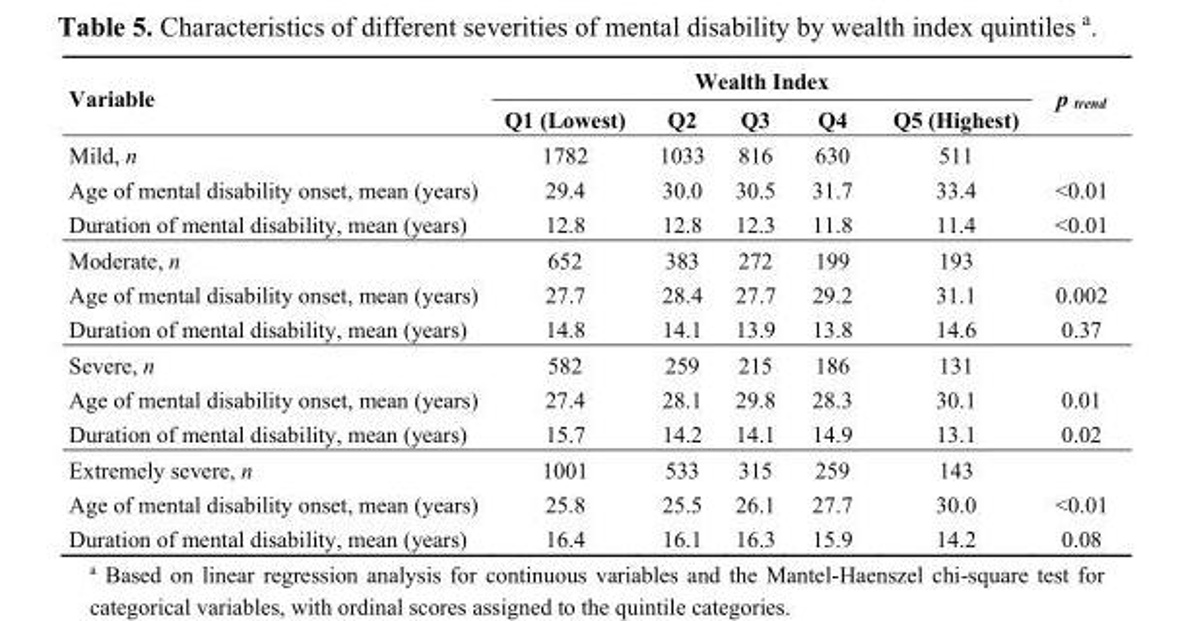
<table><thead><tr><td rowspan="2">Variable</td><td colspan="5">Wealth Index</td><td rowspan="2">p <sub>trend</sub></td></tr><tr><td>Q1 (Lowest)</td><td>Q2</td><td>Q3</td><td>Q4</td><td>Q5 (Highest)</td></tr></thead><tbody><tr><td>Mild, n</td><td>1782</td><td>1033</td><td>816</td><td>630</td><td>511</td><td></td></tr><tr><td>Age of mental disability onset, mean (years)</td><td>29.4</td><td>30.0</td><td>30.5</td><td>31.7</td><td>33.4</td><td>&lt;0.01</td></tr><tr><td>Duration of mental disability, mean (years)</td><td>12.8</td><td>12.8</td><td>12.3</td><td>11.8</td><td>11.4</td><td>&lt;0.01</td></tr><tr><td>Moderate, n</td><td>652</td><td>383</td><td>272</td><td>199</td><td>193</td><td></td></tr><tr><td>Age of mental disability onset, mean (years)</td><td>27.7</td><td>28.4</td><td>27.7</td><td>29.2</td><td>31.1</td><td>0.002</td></tr><tr><td>Duration of mental disability, mean (years)</td><td>14.8</td><td>14.1</td><td>13.9</td><td>13.8</td><td>14.6</td><td>0.37</td></tr><tr><td>Severe, n</td><td>582</td><td>259</td><td>215</td><td>186</td><td>131</td><td></td></tr><tr><td>Age of mental disability onset, mean (years)</td><td>27.4</td><td>28.1</td><td>29.8</td><td>28.3</td><td>30.1</td><td>0.01</td></tr><tr><td>Duration of mental disability, mean (years)</td><td>15.7</td><td>14.2</td><td>14.1</td><td>14.9</td><td>13.1</td><td>0.02</td></tr><tr><td>Extremely severe, n</td><td>1001</td><td>533</td><td>315</td><td>259</td><td>143</td><td></td></tr><tr><td>Age of mental disability onset, mean (years)</td><td>25.8</td><td>25.5</td><td>26.1</td><td>27.7</td><td>30.0</td><td>&lt;0.01</td></tr><tr><td>Duration of mental disability, mean (years)</td><td>16.4</td><td>16.1</td><td>16.3</td><td>15.9</td><td>14.2</td><td>0.08</td></tr></tbody></table>